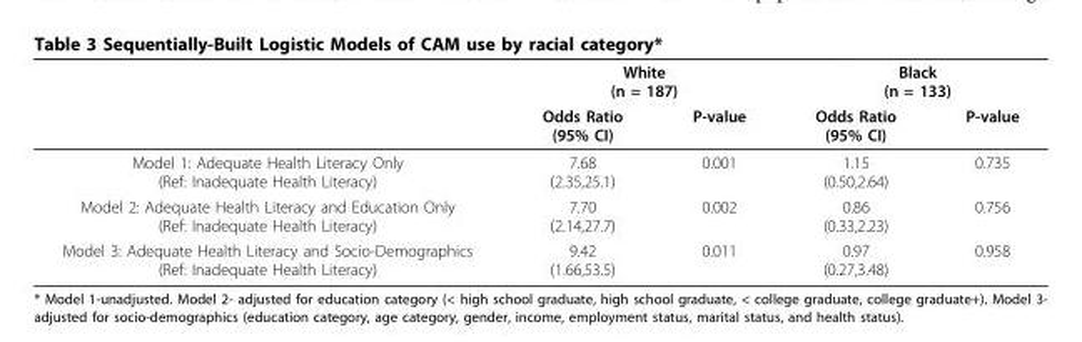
<table><thead><tr><td rowspan="2"></td><td colspan="2">White (n = 187)</td><td colspan="2">Black (n = 133)</td></tr><tr><td>Odds Ratio (95% CI)</td><td>P-value</td><td>Odds Ratio (95% CI)</td><td>P-value</td></tr></thead><tbody><tr><td>Model 1: Adequate Health Literacy Only (Ref: Inadequate Health Literacy)</td><td>7.68 (2.35,25.1)</td><td>0.001</td><td>1.15 (0.50,2.64)</td><td>0.735</td></tr><tr><td>Model 2: Adequate Health Literacy and Education Only (Ref: Inadequate Health Literacy)</td><td>7.70 (2.14,27.7)</td><td>0.002</td><td>0.86 (0.33,2.23)</td><td>0.756</td></tr><tr><td>Model 3: Adequate Health Literacy and Socio-Demographics (Ref: Inadequate Health Literacy)</td><td>9.42 (1.66,53.5)</td><td>0.011</td><td>0.97 (0.27,3.48)</td><td>0.958</td></tr></tbody></table>